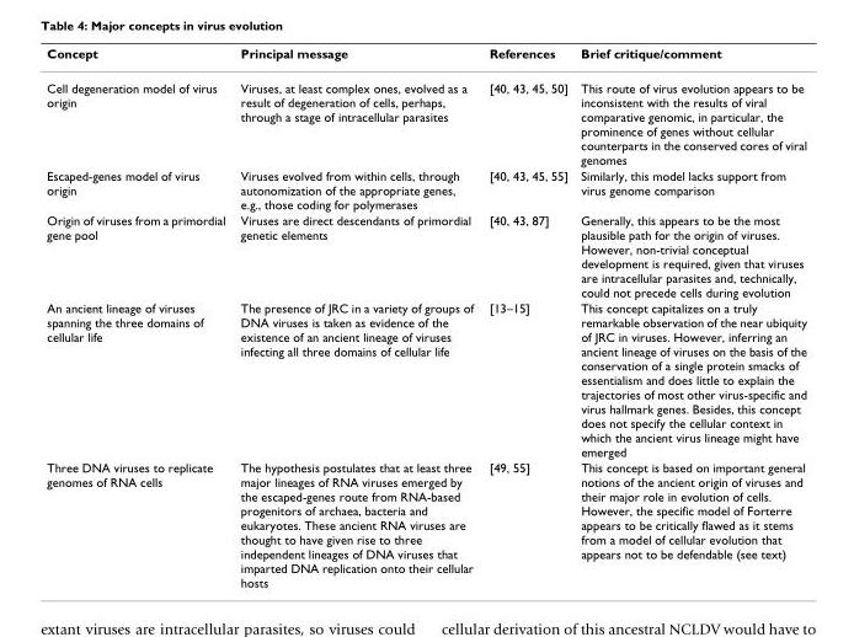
<table><thead><tr><td>Concept</td><td>Principal message</td><td>References</td><td>Brief critique/comment</td></tr></thead><tbody><tr><td>Cell degeneration model of virus origin</td><td>Viruses, at least complex ones, evolved as a result of degeneration of cells, perhaps, through a stage of intracellular parasites</td><td>[40, 43, 45, 50]</td><td>This route of virus evolution appears to be inconsistent with the results of viral comparative genomic, in particular, the prominence of genes without cellular counterparts in the conserved cores of viral genomes</td></tr><tr><td>Escaped-genes model of virus origin</td><td>Viruses evolved from within cells, through autonomization of the appropriate genes, e.g., those coding for polymerases</td><td>[40, 43, 45, 55]</td><td>Similarly, this model lacks support from virus genome comparison</td></tr><tr><td>Origin of viruses from a primordial gene pool</td><td>Viruses are direct descendants of primordial genetic elements</td><td>[40, 43, 87]</td><td>Generally, this appears to be the most plausible path for the origin of viruses. However, non-trivial conceptual development is required, given that viruses are intracellular parasites and, technically, could not precede cells during evolution</td></tr><tr><td>An ancient lineage of viruses spanning the three domains of cellular life</td><td>The presence of JRC in a variety of groups of DNA viruses is taken as evidence of the existence of an ancient lineage of viruses infecting all three domains of cellular life</td><td>[13–15]</td><td>This concept capitalizes on a truly remarkable observation of the near ubiquity of JRC in viruses. However, inferring an ancient lineage of viruses on the basis of the conservation of a single protein smacks of essentialism and does little to explain the trajectories of most other virus-specific and virus hallmark genes. Besides, this concept does not specify the cellular context in which the ancient virus lineage might have emerged</td></tr><tr><td>Three DNA viruses to replicate genomes of RNA cells</td><td>The hypothesis postulates that at least three major lineages of RNA viruses emerged by the escaped-genes route from RNA-based progenitors of archaea, bacteria and eukaryotes. These ancient RNA viruses are thought to have given rise to three independent lineages of DNA viruses that imparted DNA replication onto their cellular hosts</td><td>[49, 55]</td><td>This concept is based on important general notions of the ancient origin of viruses and their major role in evolution of cells. However, the specific model of Forterre appears to be critically flawed as it stems from a model of cellular evolution that appears not to be defendable (see text)</td></tr></tbody></table>